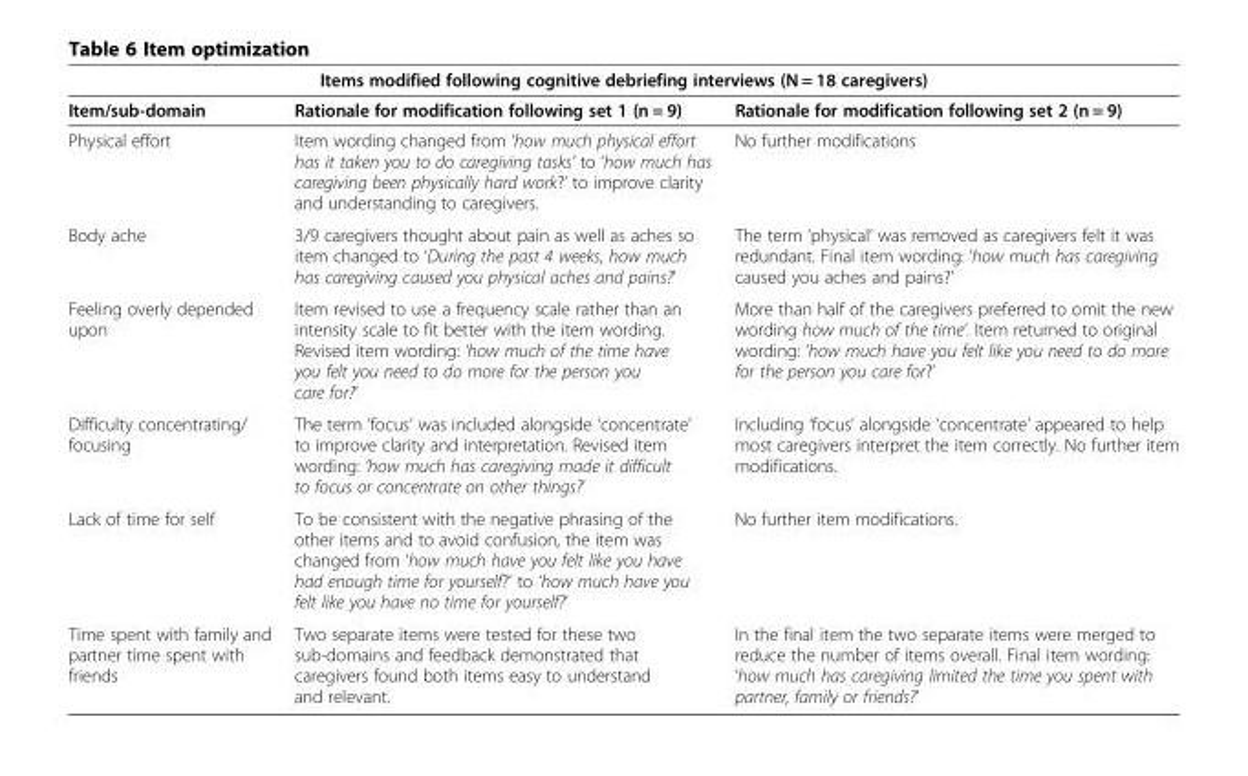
<table><thead><tr><td colspan="3">Items modified following cognitive debriefing interviews (N = 18 caregivers)</td></tr><tr><td>Item/sub-domain</td><td>Rationale for modification following set 1 (n = 9)</td><td>Rationale for modification following set 2 (n = 9)</td></tr></thead><tbody><tr><td>Physical effort</td><td>Item wording changed from ‘how much physical effort has it taken you to do caregiving tasks’ to ‘how much has caregiving been physically hard work?’ to improve clarity and understanding to caregivers.</td><td>No further modifications</td></tr><tr><td>Body ache</td><td>3/9 caregivers thought about pain as well as aches so item changed to ‘During the past 4 weeks, how much has caregiving caused you physical aches and pains?’</td><td>The term ‘physical’ was removed as caregivers felt it was redundant. Final item wording: ‘how much has caregiving caused you aches and pains?’</td></tr><tr><td>Feeling overly depended upon</td><td>Item revised to use a frequency scale rather than an intensity scale to fit better with the item wording. Revised item wording: ‘how much of the time have you felt you need to do more for the person you care for?’</td><td>More than half of the caregivers preferred to omit the new wording how much of the time’. Item returned to original wording: ‘how much have you felt like you need to do more for the person you care for?’</td></tr><tr><td>Difficulty concentrating/ focusing</td><td>The term ‘focus’ was included alongside ‘concentrate’ to improve clarity and interpretation. Revised item wording: ‘how much has caregiving made it difficult to focus or concentrate on other things?’</td><td>Including ‘focus’ alongside ‘concentrate’ appeared to help most caregivers interpret the item correctly. No further item modifications.</td></tr><tr><td>Lack of time for self</td><td>To be consistent with the negative phrasing of the other items and to avoid confusion, the item was changed from ‘how much have you felt like you have had enough time for yourself?’ to ‘how much have you felt like you have no time for yourself?’</td><td>No further item modifications.</td></tr><tr><td>Time spent with family and partner time spent with friends</td><td>Two separate items were tested for these two sub-domains and feedback demonstrated that caregivers found both items easy to understand and relevant.</td><td>In the final item the two separate items were merged to reduce the number of items overall. Final item wording: ‘how much has caregiving limited the time you spent with partner, family or friends?’</td></tr></tbody></table>